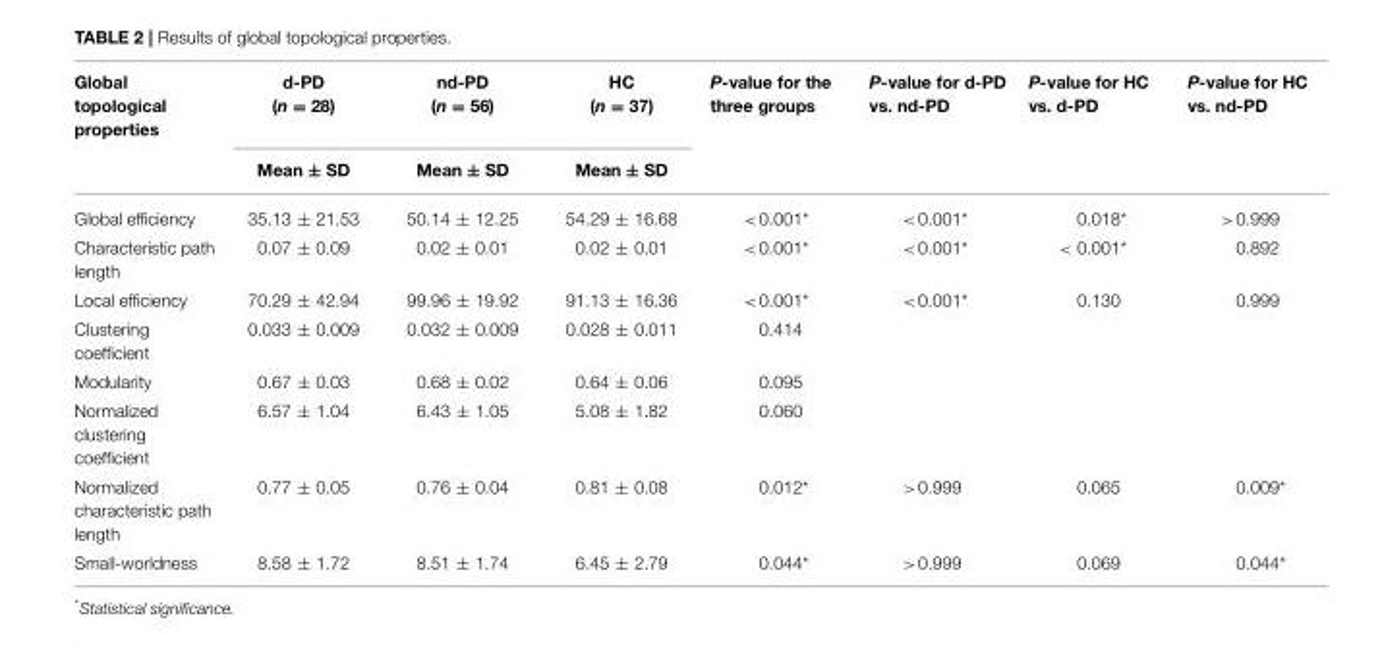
<table><thead><tr><td rowspan="2">Global topological properties</td><td rowspan="2">d-PD (n = 28) Mean ± SD</td><td rowspan="2">nd-PD (n = 56) Mean ± SD</td><td rowspan="2">HC (n = 37) Mean ± SD</td><td rowspan="2">P-value for the three groups</td><td rowspan="2">P-value for d-PD vs. nd-PD</td><td rowspan="2">P-value for HC vs. d-PD</td><td rowspan="2">P-value for HC vs. nd-PD</td></tr><tr></tr></thead><tbody><tr><td>Global efficiency</td><td>35.13 ± 21.53</td><td>50.14 ± 12.25</td><td>54.29 ± 16.68</td><td>&lt;0.001*</td><td>&lt;0.001*</td><td>0.018*</td><td>&gt;0.999</td></tr><tr><td>Characteristic path length</td><td>0.07 ± 0.09</td><td>0.02 ± 0.01</td><td>0.02 ± 0.01</td><td>&lt;0.001*</td><td>&lt;0.001*</td><td>&lt; 0.001*</td><td>0.892</td></tr><tr><td>Local efficiency</td><td>70.29 ± 42.94</td><td>99.96 ± 19.92</td><td>91.13 ± 16.36</td><td>&lt;0.001*</td><td>&lt;0.001*</td><td>0.130</td><td>0.999</td></tr><tr><td>Clustering coefficient</td><td>0.033 ± 0.009</td><td>0.032 ± 0.009</td><td>0.028 ± 0.011</td><td>0.414</td><td></td><td></td><td></td></tr><tr><td>Modularity</td><td>0.67 ± 0.03</td><td>0.68 ± 0.02</td><td>0.64 ± 0.06</td><td>0.095</td><td></td><td></td><td></td></tr><tr><td>Normalized clustering coefficient</td><td>6.57 ± 1.04</td><td>6.43 ± 1.05</td><td>5.08 ± 1.82</td><td>0.060</td><td></td><td></td><td></td></tr><tr><td>Normalized characteristic path length</td><td>0.77 ± 0.05</td><td>0.76 ± 0.04</td><td>0.81 ± 0.08</td><td>0.012*</td><td>&gt;0.999</td><td>0.065</td><td>0.009*</td></tr><tr><td>Small-worldness</td><td>8.58 ± 1.72</td><td>8.51 ± 1.74</td><td>6.45 ± 2.79</td><td>0.044*</td><td>&gt;0.999</td><td>0.069</td><td>0.044*</td></tr></tbody></table>